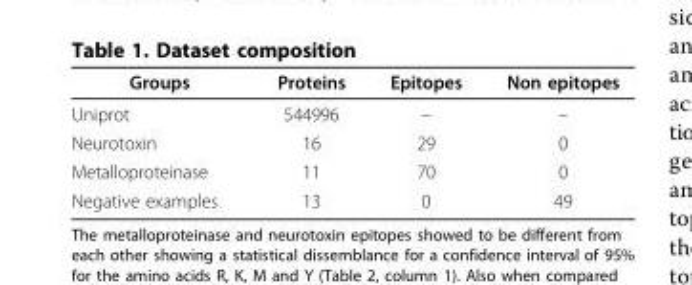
<table><thead><tr><td>Groups</td><td>Proteins</td><td>Epitopes</td><td>Non epitopes</td></tr></thead><tbody><tr><td>Uniprot</td><td>544996</td><td>–</td><td>–</td></tr><tr><td>Neurotoxin</td><td>16</td><td>29</td><td>0</td></tr><tr><td>Metalloproteinase</td><td>11</td><td>70</td><td>0</td></tr><tr><td>Negative examples</td><td>13</td><td>0</td><td>49</td></tr></tbody></table>